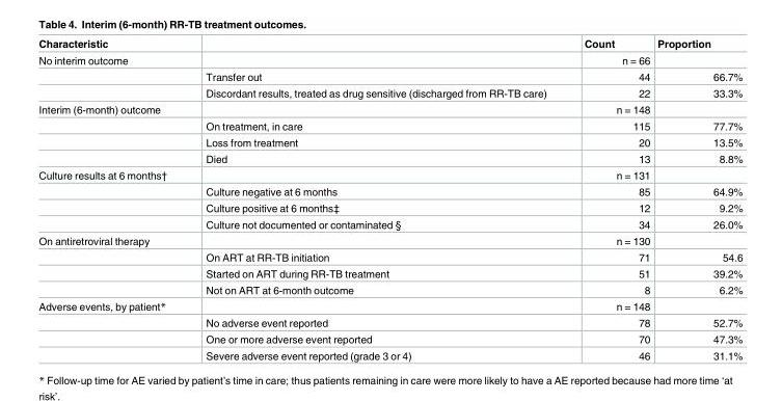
<table><thead><tr><td>Characteristic</td><td></td><td>Count</td><td>Proportion</td></tr></thead><tbody><tr><td rowspan="3">No interim outcome</td><td></td><td>n = 66</td><td></td></tr><tr><td>Transfer out</td><td>44</td><td>66.7%</td></tr><tr><td>Discordant results, treated as drug sensitive (discharged from RR-TB care)</td><td>22</td><td>33.3%</td></tr><tr><td rowspan="4">Interim (6-month) outcome</td><td></td><td>n = 148</td><td></td></tr><tr><td>On treatment, in care</td><td>115</td><td>77.7%</td></tr><tr><td>Loss from treatment</td><td>20</td><td>13.5%</td></tr><tr><td>Died</td><td>13</td><td>8.8%</td></tr><tr><td rowspan="4">Culture results at 6 months†</td><td></td><td>n = 131</td><td></td></tr><tr><td>Culture negative at 6 months</td><td>85</td><td>64.9%</td></tr><tr><td>Culture positive at 6 months‡</td><td>12</td><td>9.2%</td></tr><tr><td>Culture not documented or contaminated §</td><td>34</td><td>26.0%</td></tr><tr><td rowspan="4">On antiretroviral therapy</td><td></td><td>n = 130</td><td></td></tr><tr><td>On ART at RR-TB initiation</td><td>71</td><td>54.6</td></tr><tr><td>Started on ART during RR-TB treatment</td><td>51</td><td>39.2%</td></tr><tr><td>Not on ART at 6-month outcome</td><td>8</td><td>6.2%</td></tr><tr><td rowspan="4">Adverse events, by patient*</td><td></td><td>n = 148</td><td></td></tr><tr><td>No adverse event reported</td><td>78</td><td>52.7%</td></tr><tr><td>One or more adverse event reported</td><td>70</td><td>47.3%</td></tr><tr><td>Severe adverse event reported (grade 3 or 4)</td><td>46</td><td>31.1%</td></tr></tbody></table>